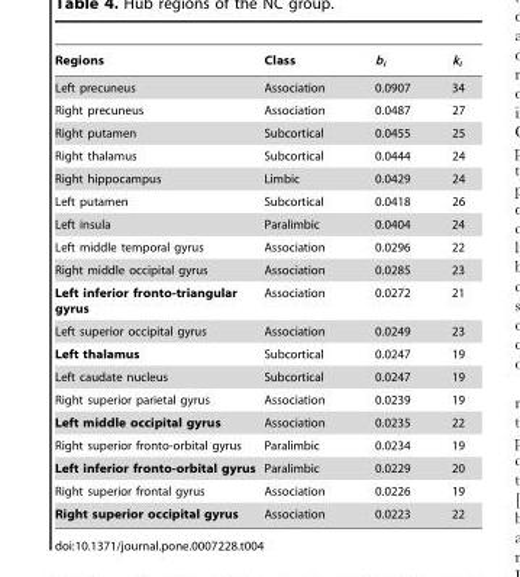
<table><thead><tr><td>Regions</td><td>Class</td><td>b<sub>i</sub></td><td>k<sub>i</sub></td></tr></thead><tbody><tr><td>Left precuneus</td><td>Association</td><td>0.0907</td><td>34</td></tr><tr><td>Right precuneus</td><td>Association</td><td>0.0487</td><td>27</td></tr><tr><td>Right putamen</td><td>Subcortical</td><td>0.0455</td><td>25</td></tr><tr><td>Right thalamus</td><td>Subcortical</td><td>0.0444</td><td>24</td></tr><tr><td>Right hippocampus</td><td>Limbic</td><td>0.0429</td><td>24</td></tr><tr><td>Left putamen</td><td>Subcortical</td><td>0.0418</td><td>26</td></tr><tr><td>Left insula</td><td>Paralimbic</td><td>0.0404</td><td>24</td></tr><tr><td>Left middle temporal gyrus</td><td>Association</td><td>0.0296</td><td>22</td></tr><tr><td>Right middle occipital gyrus</td><td>Association</td><td>0.0285</td><td>23</td></tr><tr><td>Left inferior fronto-triangular gyrus</td><td>Association</td><td>0.0272</td><td>21</td></tr><tr><td>Left superior occipital gyrus</td><td>Association</td><td>0.0249</td><td>23</td></tr><tr><td>Left thalamus</td><td>Subcortical</td><td>0.0247</td><td>19</td></tr><tr><td>Left caudate nucleus</td><td>Subcortical</td><td>0.0247</td><td>19</td></tr><tr><td>Right superior parietal gyrus</td><td>Association</td><td>0.0239</td><td>19</td></tr><tr><td>Left middle occipital gyrus</td><td>Association</td><td>0.0235</td><td>22</td></tr><tr><td>Right superior fronto-orbital gyrus</td><td>Paralimbic</td><td>0.0234</td><td>19</td></tr><tr><td>Left inferior fronto-orbital gyrus</td><td>Paralimbic</td><td>0.0229</td><td>20</td></tr><tr><td>Right superior frontal gyrus</td><td>Association</td><td>0.0226</td><td>19</td></tr><tr><td>Right superior occipital gyrus</td><td>Association</td><td>0.0223</td><td>22</td></tr></tbody></table>